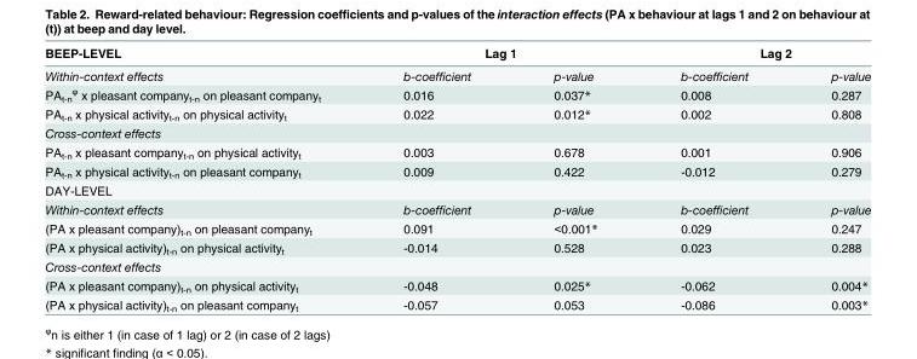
<table><thead><tr><td rowspan="2">BEEP-LEVEL Within-context effects</td><td colspan="2">Lag 1</td><td colspan="2">Lag 2</td></tr><tr><td>b-coefficient</td><td>p-value</td><td>b-coefficient</td><td>p-value</td></tr></thead><tbody><tr><td>PA<sub>t-n</sub> <sup>φ</sup> x pleasant company<sub>t-n</sub> on pleasant company<sub>t</sub></td><td>0.016</td><td>0.037*</td><td>0.008</td><td>0.287</td></tr><tr><td>PA<sub>t-n</sub> x physical activity<sub>t-n</sub> on physical activity<sub>t</sub></td><td>0.022</td><td>0.012*</td><td>0.002</td><td>0.808</td></tr><tr><td colspan="5">Cross-context effects</td></tr><tr><td>PA<sub>t-n</sub> x pleasant company<sub>t-n</sub> on physical activity<sub>t</sub></td><td>0.003</td><td>0.678</td><td>0.001</td><td>0.906</td></tr><tr><td>PA<sub>t-n</sub> x physical activity<sub>t-n</sub> on pleasant company<sub>t</sub></td><td>0.009</td><td>0.422</td><td>-0.012</td><td>0.279</td></tr><tr><td colspan="5">DAY-LEVEL</td></tr><tr><td>Within-context effects</td><td>b-coefficient</td><td>p-value</td><td>b-coefficient</td><td>p-value</td></tr><tr><td>(PA x pleasant company)<sub>t-n</sub> on pleasant company<sub>t</sub></td><td>0.091</td><td>&lt;0.001*</td><td>0.029</td><td>0.247</td></tr><tr><td>(PA x physical activity)<sub>t-n</sub> on physical activity<sub>t</sub></td><td>-0.014</td><td>0.528</td><td>0.023</td><td>0.288</td></tr><tr><td colspan="5">Cross-context effects</td></tr><tr><td>(PA x pleasant company)<sub>t-n</sub> on physical activity<sub>t</sub></td><td>-0.048</td><td>0.025*</td><td>-0.062</td><td>0.004*</td></tr><tr><td>(PA x physical activity)<sub>t-n</sub> on pleasant company<sub>t</sub></td><td>-0.057</td><td>0.053</td><td>-0.086</td><td>0.003*</td></tr></tbody></table>